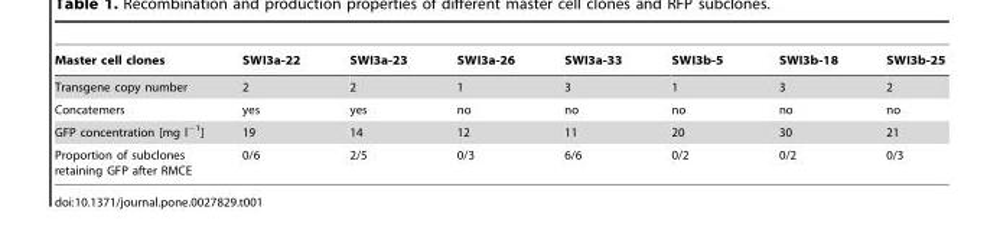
<table><thead><tr><td>Master cell clones</td><td>SWI3a-22</td><td>SWI3a-23</td><td>SWI3a-26</td><td>SWI3a-33</td><td>SWI3b-5</td><td>SWI3b-18</td><td>SWI3b-25</td></tr></thead><tbody><tr><td>Transgene copy number</td><td>2</td><td>2</td><td>1</td><td>3</td><td>1</td><td>3</td><td>2</td></tr><tr><td>Concatemers</td><td>yes</td><td>yes</td><td>no</td><td>no</td><td>no</td><td>no</td><td>no</td></tr><tr><td>GFP concentration [mg l<sup>−1</sup>]</td><td>19</td><td>14</td><td>12</td><td>11</td><td>20</td><td>30</td><td>21</td></tr><tr><td>Proportion of subclones retaining GFP after RMCE</td><td>0/6</td><td>2/5</td><td>0/3</td><td>6/6</td><td>0/2</td><td>0/2</td><td>0/3</td></tr></tbody></table>